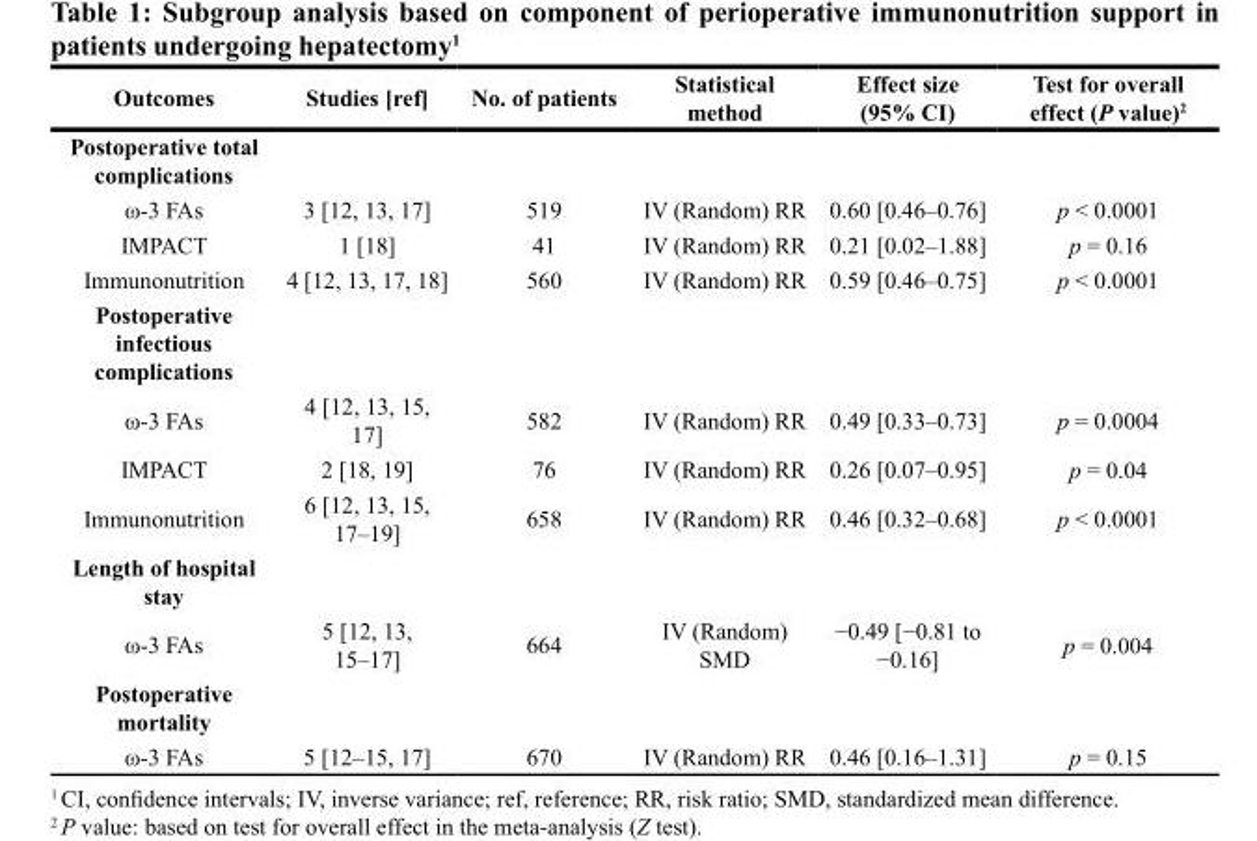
<table><thead><tr><td>Outcomes</td><td>Studies [ref]</td><td>No. of patients</td><td>Statistical method</td><td>Effect size (95% CI)</td><td>Test for overall effect (P value)<sup>2</sup></td></tr></thead><tbody><tr><td colspan="6">Postoperative total complications</td></tr><tr><td>ω-3 FAs</td><td>3 [12, 13, 17]</td><td>519</td><td>IV (Random) RR</td><td>0.60 [0.46–0.76]</td><td>p &lt; 0.0001</td></tr><tr><td>IMPACT</td><td>1 [18]</td><td>41</td><td>IV (Random) RR</td><td>0.21 [0.02–1.88]</td><td>p = 0.16</td></tr><tr><td>Immunonutrition</td><td>4 [12, 13, 17, 18]</td><td>560</td><td>IV (Random) RR</td><td>0.59 [0.46–0.75]</td><td>p &lt; 0.0001</td></tr><tr><td colspan="6">Postoperative infectious complications</td></tr><tr><td>ω-3 FAs</td><td>4 [12, 13, 15, 17]</td><td>582</td><td>IV (Random) RR</td><td>0.49 [0.33–0.73]</td><td>p = 0.0004</td></tr><tr><td>IMPACT</td><td>2 [18, 19]</td><td>76</td><td>IV (Random) RR</td><td>0.26 [0.07–0.95]</td><td>p = 0.04</td></tr><tr><td>Immunonutrition</td><td>6 [12, 13, 15, 17–19]</td><td>658</td><td>IV (Random) RR</td><td>0.46 [0.32–0.68]</td><td>p &lt; 0.0001</td></tr><tr><td colspan="6">Length of hospital stay</td></tr><tr><td>ω-3 FAs</td><td>5 [12, 13, 15–17]</td><td>664</td><td>IV (Random) SMD</td><td>−0.49 [−0.81 to −0.16]</td><td>p = 0.004</td></tr><tr><td colspan="6">Postoperative mortality</td></tr><tr><td>ω-3 FAs</td><td>5 [12–15, 17]</td><td>670</td><td>IV (Random) RR</td><td>0.46 [0.16–1.31]</td><td>p = 0.15</td></tr></tbody></table>